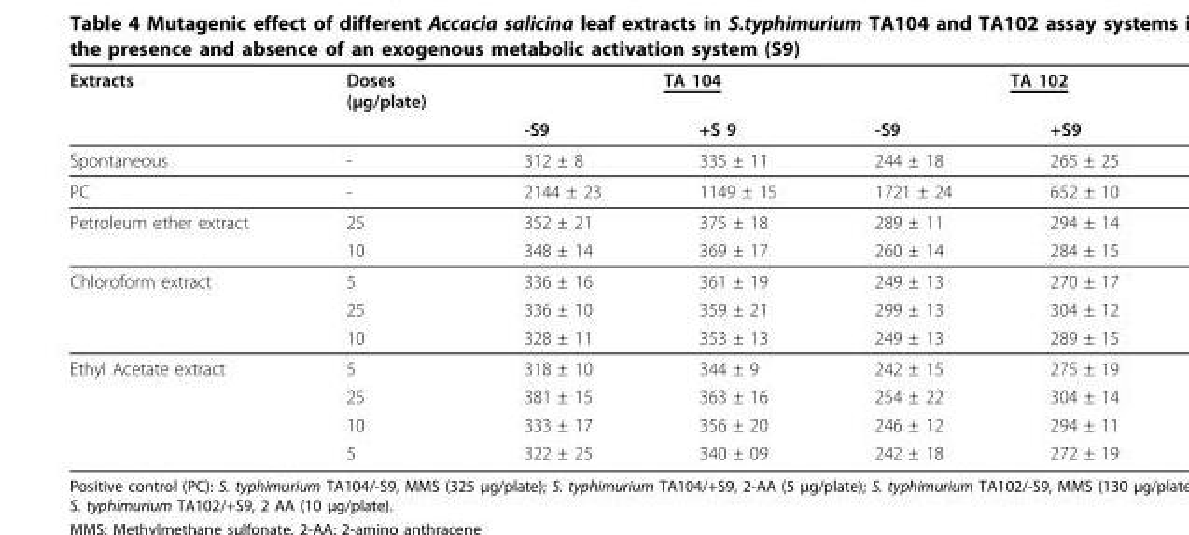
<table><thead><tr><td rowspan="2">Extracts</td><td rowspan="2">Doses (μg/plate)</td><td colspan="2">TA 104</td><td colspan="2">TA 102</td></tr><tr><td>-S9</td><td>+S 9</td><td>-S9</td><td>+S9</td></tr></thead><tbody><tr><td>Spontaneous</td><td>-</td><td>312 ± 8</td><td>335 ± 11</td><td>244 ± 18</td><td>265 ± 25</td></tr><tr><td>PC</td><td>-</td><td>2144 ± 23</td><td>1149 ± 15</td><td>1721 ± 24</td><td>652 ± 10</td></tr><tr><td rowspan="2">Petroleum ether extract</td><td>25</td><td>352 ± 21</td><td>375 ± 18</td><td>289 ± 11</td><td>294 ± 14</td></tr><tr><td>10</td><td>348 ± 14</td><td>369 ± 17</td><td>260 ± 14</td><td>284 ± 15</td></tr><tr><td rowspan="3">Chloroform extract</td><td>5</td><td>336 ± 16</td><td>361 ± 19</td><td>249 ± 13</td><td>270 ± 17</td></tr><tr><td>25</td><td>336 ± 10</td><td>359 ± 21</td><td>299 ± 13</td><td>304 ± 12</td></tr><tr><td>10</td><td>328 ± 11</td><td>353 ± 13</td><td>249 ± 13</td><td>289 ± 15</td></tr><tr><td rowspan="4">Ethyl Acetate extract</td><td>5</td><td>318 ± 10</td><td>344 ± 9</td><td>242 ± 15</td><td>275 ± 19</td></tr><tr><td>25</td><td>381 ± 15</td><td>363 ± 16</td><td>254 ± 22</td><td>304 ± 14</td></tr><tr><td>10</td><td>333 ± 17</td><td>356 ± 20</td><td>246 ± 12</td><td>294 ± 11</td></tr><tr><td>5</td><td>322 ± 25</td><td>340 ± 09</td><td>242 ± 18</td><td>272 ± 19</td></tr></tbody></table>